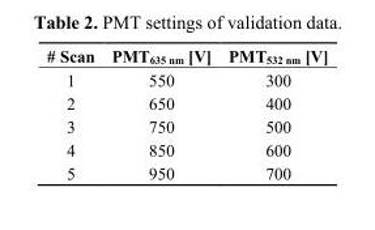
<table><thead><tr><td># Scan</td><td>PMT<sub>635 nm</sub> [V]</td><td>PMT<sub>532 nm</sub> [V]</td></tr></thead><tbody><tr><td>1</td><td>550</td><td>300</td></tr><tr><td>2</td><td>650</td><td>400</td></tr><tr><td>3</td><td>750</td><td>500</td></tr><tr><td>4</td><td>850</td><td>600</td></tr><tr><td>5</td><td>950</td><td>700</td></tr></tbody></table>